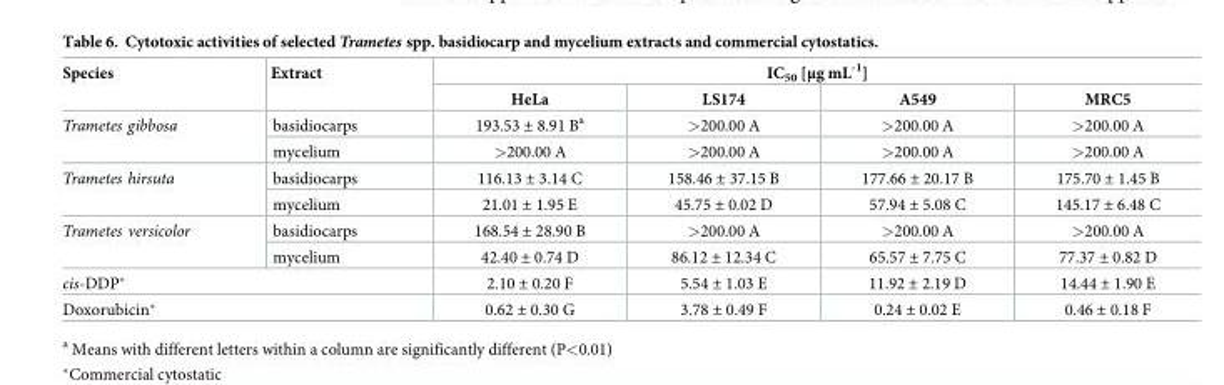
<table><thead><tr><td rowspan="2">Species</td><td rowspan="2">Extract</td><td colspan="4">IC<sub>50</sub> [μg mL<sup>-1</sup>]</td></tr><tr><td>HeLa</td><td>LS174</td><td>A549</td><td>MRC5</td></tr></thead><tbody><tr><td rowspan="2">Trametes gibbosa</td><td>basidiocarps</td><td>193.53 ± 8.91 B<sup>a</sup></td><td>&gt;200.00 A</td><td>&gt;200.00 A</td><td>&gt;200.00 A</td></tr><tr><td>mycelium</td><td>&gt;200.00 A</td><td>&gt;200.00 A</td><td>&gt;200.00 A</td><td>&gt;200.00 A</td></tr><tr><td rowspan="2">Trametes hirsuta</td><td>basidiocarps</td><td>116.13 ± 3.14 C</td><td>158.46 ± 37.15 B</td><td>177.66 ± 20.17 B</td><td>175.70 ± 1.45 B</td></tr><tr><td>mycelium</td><td>21.01 ± 1.95 E</td><td>45.75 ± 0.02 D</td><td>57.94 ± 5.08 C</td><td>145.17 ± 6.48 C</td></tr><tr><td rowspan="2">Trametes versicolor</td><td>basidiocarps</td><td>168.54 ± 28.90 B</td><td>&gt;200.00 A</td><td>&gt;200.00 A</td><td>&gt;200.00 A</td></tr><tr><td>mycelium</td><td>42.40 ± 0.74 D</td><td>86.12 ± 12.34 C</td><td>65.57 ± 7.75 C</td><td>77.37 ± 0.82 D</td></tr><tr><td colspan="2">cis-DDP*</td><td>2.10 ± 0.20 F</td><td>5.54 ± 1.03 E</td><td>11.92 ± 2.19 D</td><td>14.44 ± 1.90 E</td></tr><tr><td colspan="2">Doxorubicin*</td><td>0.62 ± 0.30 G</td><td>3.78 ± 0.49 F</td><td>0.24 ± 0.02 E</td><td>0.46 ± 0.18 F</td></tr></tbody></table>